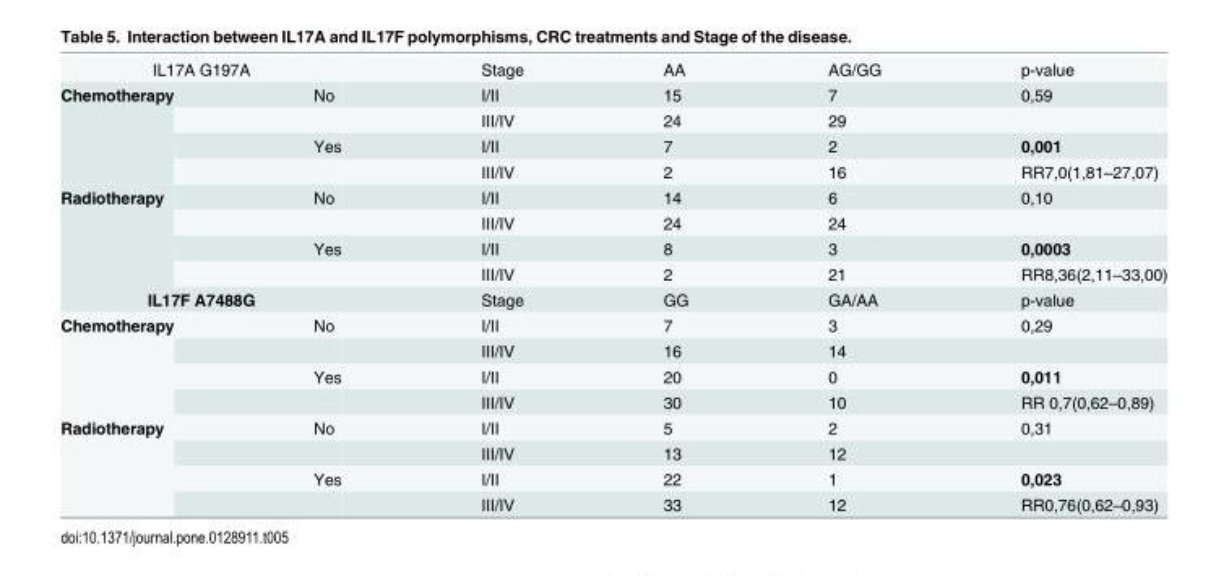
<table><tbody><tr><td colspan="2">IL17A G197A</td><td>Stage</td><td>AA</td><td>AG/GG</td><td>p-value</td></tr><tr><td rowspan="4">Chemotherapy</td><td>No</td><td>I/II</td><td>15</td><td>7</td><td>0,59</td></tr><tr><td></td><td>III/IV</td><td>24</td><td>29</td><td></td></tr><tr><td>Yes</td><td>I/II</td><td>7</td><td>2</td><td>0,001</td></tr><tr><td></td><td>III/IV</td><td>2</td><td>16</td><td>RR7,0(1,81–27,07)</td></tr><tr><td rowspan="4">Radiotherapy</td><td>No</td><td>I/II</td><td>14</td><td>6</td><td>0,10</td></tr><tr><td></td><td>III/IV</td><td>24</td><td>24</td><td></td></tr><tr><td>Yes</td><td>I/II</td><td>8</td><td>3</td><td>0,0003</td></tr><tr><td></td><td>III/IV</td><td>2</td><td>21</td><td>RR8,36(2,11–33,00)</td></tr><tr><td colspan="2">IL17F A7488G</td><td>Stage</td><td>GG</td><td>GA/AA</td><td>p-value</td></tr><tr><td rowspan="4">Chemotherapy</td><td>No</td><td>I/II</td><td>7</td><td>3</td><td>0,29</td></tr><tr><td></td><td>III/IV</td><td>16</td><td>14</td><td></td></tr><tr><td>Yes</td><td>I/II</td><td>20</td><td>0</td><td>0,011</td></tr><tr><td></td><td>III/IV</td><td>30</td><td>10</td><td>RR 0,7(0,62–0,89)</td></tr><tr><td rowspan="4">Radiotherapy</td><td>No</td><td>I/II</td><td>5</td><td>2</td><td>0,31</td></tr><tr><td></td><td>III/IV</td><td>13</td><td>12</td><td></td></tr><tr><td>Yes</td><td>I/II</td><td>22</td><td>1</td><td>0,023</td></tr><tr><td></td><td>III/IV</td><td>33</td><td>12</td><td>RR0,76(0,62–0,93)</td></tr></tbody></table>